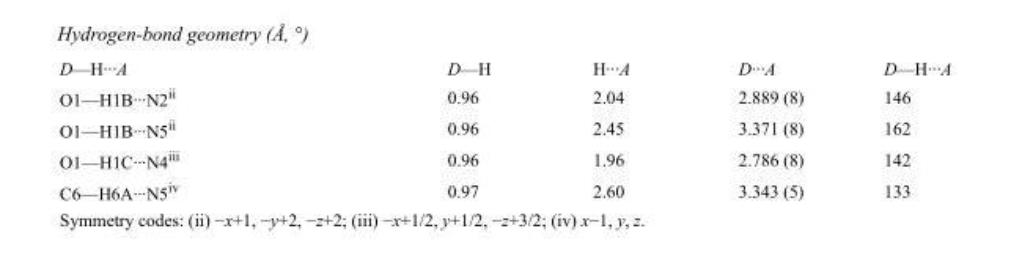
<table><tbody><tr><td>D—H···A</td><td>D—H</td><td>H···A</td><td>D···A</td><td>D—H···A</td></tr><tr><td>O1—H1B···N2<sup>ii</sup></td><td>0.96</td><td>2.04</td><td>2.889 (8)</td><td>146</td></tr><tr><td>O1—H1B···N5<sup>ii</sup></td><td>0.96</td><td>2.45</td><td>3.371 (8)</td><td>162</td></tr><tr><td>O1—H1C···N4<sup>iii</sup></td><td>0.96</td><td>1.96</td><td>2.786 (8)</td><td>142</td></tr><tr><td>C6—H6A···N5<sup>iv</sup></td><td>0.97</td><td>2.60</td><td>3.343 (5)</td><td>133</td></tr></tbody></table>